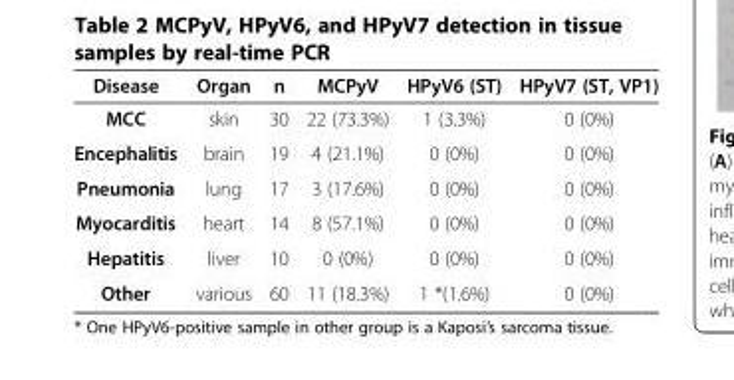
<table><thead><tr><td>Disease</td><td>Organ</td><td>n</td><td>MCPyV</td><td>HPyV6 (ST)</td><td>HPyV7 (ST, VP1)</td></tr></thead><tbody><tr><td>MCC</td><td>skin</td><td>30</td><td>22 (73.3%)</td><td>1 (3.3%)</td><td>0 (0%)</td></tr><tr><td>Encephalitis</td><td>brain</td><td>19</td><td>4 (21.1%)</td><td>0 (0%)</td><td>0 (0%)</td></tr><tr><td>Pneumonia</td><td>lung</td><td>17</td><td>3 (17.6%)</td><td>0 (0%)</td><td>0 (0%)</td></tr><tr><td>Myocarditis</td><td>heart</td><td>14</td><td>8 (57.1%)</td><td>0 (0%)</td><td>0 (0%)</td></tr><tr><td>Hepatitis</td><td>liver</td><td>10</td><td>0 (0%)</td><td>0 (0%)</td><td>0 (0%)</td></tr><tr><td>Other</td><td>various</td><td>60</td><td>11 (18.3%)</td><td>1 *(1.6%)</td><td>0 (0%)</td></tr></tbody></table>